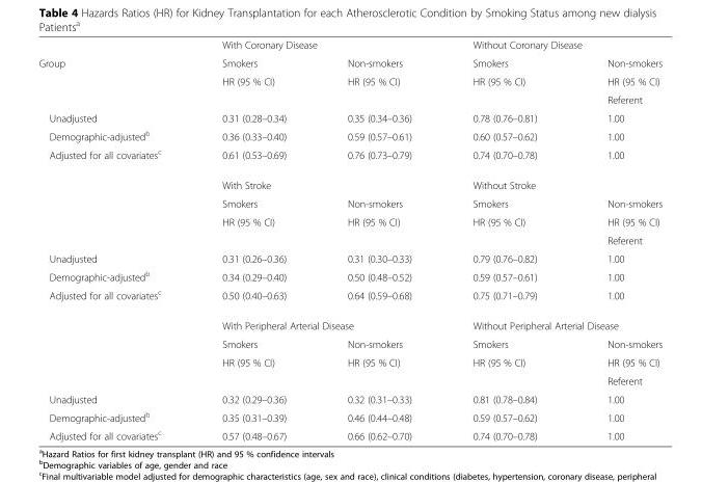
<table><thead><tr><td rowspan="2">Group</td><td colspan="2">With Coronary Disease</td><td colspan="2">Without Coronary Disease</td></tr><tr><td>Smokers</td><td>Non-smokers</td><td>Smokers</td><td>Non-smokers</td></tr></thead><tbody><tr><td></td><td>HR (95 % CI)</td><td>HR (95 % CI)</td><td>HR (95 % CI)</td><td>HR (95 % CI)</td></tr><tr><td></td><td></td><td></td><td></td><td>Referent</td></tr><tr><td>Unadjusted</td><td>0.31 (0.28–0.34)</td><td>0.35 (0.34–0.36)</td><td>0.78 (0.76–0.81)</td><td>1.00</td></tr><tr><td>Demographic-adjusted<sup>b</sup></td><td>0.36 (0.33–0.40)</td><td>0.59 (0.57–0.61)</td><td>0.60 (0.57–0.62)</td><td>1.00</td></tr><tr><td rowspan="5">Adjusted for all covariates<sup>c</sup></td><td>0.61 (0.53–0.69)</td><td>0.76 (0.73–0.79)</td><td>0.74 (0.70–0.78)</td><td>1.00</td></tr><tr><td colspan="2">With Stroke</td><td colspan="2">Without Stroke</td></tr><tr><td>Smokers</td><td>Non-smokers</td><td>Smokers</td><td>Non-smokers</td></tr><tr><td>HR (95 % CI)</td><td>HR (95 % CI)</td><td>HR (95 % CI)</td><td>HR (95 % CI)</td></tr><tr><td></td><td></td><td></td><td>Referent</td></tr><tr><td>Unadjusted</td><td>0.31 (0.26–0.36)</td><td>0.31 (0.30–0.33)</td><td>0.79 (0.76–0.82)</td><td>1.00</td></tr><tr><td>Demographic-adjusted<sup>b</sup></td><td>0.34 (0.29–0.40)</td><td>0.50 (0.48–0.52)</td><td>0.59 (0.57–0.61)</td><td>1.00</td></tr><tr><td rowspan="5">Adjusted for all covariates<sup>c</sup></td><td>0.50 (0.40–0.63)</td><td>0.64 (0.59–0.68)</td><td>0.75 (0.71–0.79)</td><td>1.00</td></tr><tr><td colspan="2">With Peripheral Arterial Disease</td><td colspan="2">Without Peripheral Arterial Disease</td></tr><tr><td>Smokers</td><td>Non-smokers</td><td>Smokers</td><td>Non-smokers</td></tr><tr><td>HR (95 % CI)</td><td>HR (95 % CI)</td><td>HR (95 % CI)</td><td>HR (95 % CI)</td></tr><tr><td></td><td></td><td></td><td>Referent</td></tr><tr><td>Unadjusted</td><td>0.32 (0.29–0.36)</td><td>0.32 (0.31–0.33)</td><td>0.81 (0.78–0.84)</td><td>1.00</td></tr><tr><td>Demographic-adjusted<sup>b</sup></td><td>0.35 (0.31–0.39)</td><td>0.46 (0.44–0.48)</td><td>0.59 (0.57–0.62)</td><td>1.00</td></tr><tr><td>Adjusted for all covariates<sup>c</sup></td><td>0.57 (0.48–0.67)</td><td>0.66 (0.62–0.70)</td><td>0.74 (0.70–0.78)</td><td>1.00</td></tr></tbody></table>